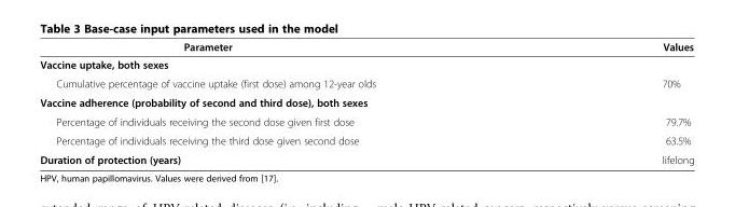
<table><thead><tr><td>Parameter</td><td>Values</td></tr></thead><tbody><tr><td colspan="2">Vaccine uptake, both sexes</td></tr><tr><td>Cumulative percentage of vaccine uptake (first dose) among 12-year olds</td><td>70%</td></tr><tr><td colspan="2">Vaccine adherence (probability of second and third dose), both sexes</td></tr><tr><td>Percentage of individuals receiving the second dose given first dose</td><td>79.7%</td></tr><tr><td>Percentage of individuals receiving the third dose given second dose</td><td>63.5%</td></tr><tr><td>Duration of protection (years)</td><td>lifelong</td></tr></tbody></table>